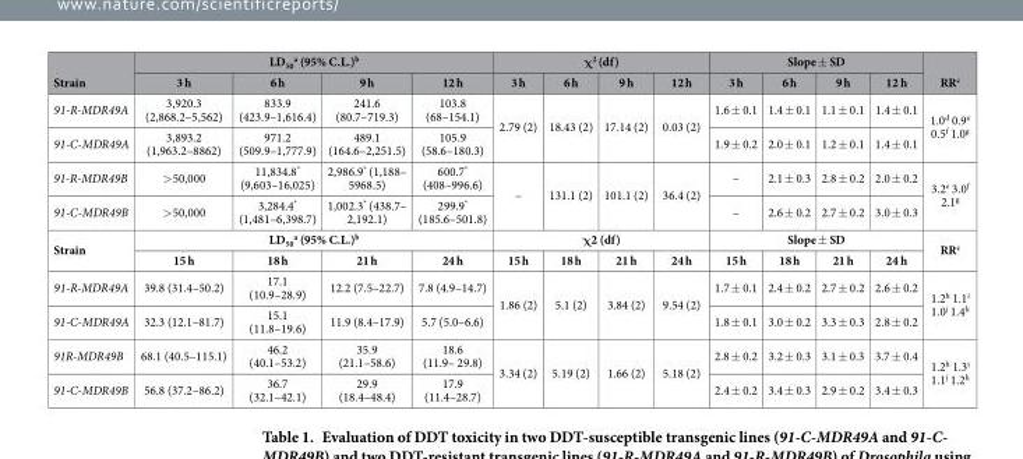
<table><thead><tr><td rowspan="2">Strain</td><td colspan="4">LD<sub>50</sub> <sup>a</sup> (95% C.L.)<sup>b</sup></td><td colspan="4">χ<sup>2</sup> (df)</td><td colspan="4">Slope ± SD</td><td rowspan="2">RR<sup>c</sup></td></tr><tr><td>3 h</td><td>6 h</td><td>9 h</td><td>12 h</td><td>3 h</td><td>6 h</td><td>9 h</td><td>12 h</td><td>3 h</td><td>6 h</td><td>9 h</td><td>12 h</td></tr></thead><tbody><tr><td>91-R-MDR49A</td><td>3,920.3 (2,868.2–5,562)</td><td>833.9 (423.9–1,616.4)</td><td>241.6 (80.7–719.3)</td><td>103.8 (68–154.1)</td><td rowspan="2">2.79 (2)</td><td rowspan="2">18.43 (2)</td><td rowspan="2">17.14 (2)</td><td rowspan="2">0.03 (2)</td><td>1.6 ± 0.1</td><td>1.4 ± 0.1</td><td>1.1 ± 0.1</td><td>1.4 ± 0.1</td><td rowspan="2">1.0<sup>d</sup> 0.9<sup>e</sup> 0.5<sup>f</sup> 1.0<sup>g</sup></td></tr><tr><td>91-C-MDR49A</td><td>3,893.2 (1,963.2–8862)</td><td>971.2 (509.9–1,777.9)</td><td>489.1 (164.6–2,251.5)</td><td>105.9 (58.6–180.3)</td><td>1.9 ± 0.2</td><td>2.0 ± 0.1</td><td>1.2 ± 0.1</td><td>1.4 ± 0.1</td></tr><tr><td>91-R-MDR49B</td><td>&gt; 50,000</td><td>11,834.8* (9,603–16,025)</td><td>2,986.9* (1,188– 5968.5)</td><td>600.7* (408–996.6)</td><td rowspan="2">–</td><td rowspan="2">131.1 (2)</td><td rowspan="2">101.1 (2)</td><td rowspan="2">36.4 (2)</td><td>–</td><td>2.1 ± 0.3</td><td>2.8 ± 0.2</td><td>2.0 ± 0.2</td><td rowspan="2">3.2<sup>e</sup> 3.0<sup>f</sup> 2.1<sup>g</sup></td></tr><tr><td>91-C-MDR49B</td><td>&gt; 50,000</td><td>3,284.4* (1,481–6,398.7)</td><td>1,002.3* (438.7– 2,192.1)</td><td>299.9* (185.6–501.8)</td><td>–</td><td>2.6 ± 0.2</td><td>2.7 ± 0.2</td><td>3.0 ± 0.3</td></tr><tr><td rowspan="2">Strain</td><td colspan="4">LD<sub>50</sub> <sup>a</sup> (95% C.L.)<sup>b</sup></td><td colspan="4">χ2 (df)</td><td colspan="4">Slope ± SD</td><td rowspan="2">RR<sup>c</sup></td></tr><tr><td>15 h</td><td>18 h</td><td>21 h</td><td>24 h</td><td>15 h</td><td>18 h</td><td>21 h</td><td>24 h</td><td>15 h</td><td>18 h</td><td>21 h</td><td>24 h</td></tr><tr><td>91-R-MDR49A</td><td>39.8 (31.4–50.2)</td><td>17.1 (10.9–28.9)</td><td>12.2 (7.5–22.7)</td><td>7.8 (4.9–14.7)</td><td rowspan="2">1.86 (2)</td><td rowspan="2">5.1 (2)</td><td rowspan="2">3.84 (2)</td><td rowspan="2">9.54 (2)</td><td>1.7 ± 0.1</td><td>2.4 ± 0.2</td><td>2.7 ± 0.2</td><td>2.6 ± 0.2</td><td rowspan="2">1.2<sup>h</sup> 1.1<sup>i</sup> 1.0<sup>j</sup> 1.4<sup>k</sup></td></tr><tr><td>91-C-MDR49A</td><td>32.3 (12.1–81.7)</td><td>15.1 (11.8–19.6)</td><td>11.9 (8.4–17.9)</td><td>5.7 (5.0–6.6)</td><td>1.8 ± 0.1</td><td>3.0 ± 0.2</td><td>3.3 ± 0.3</td><td>2.8 ± 0.2</td></tr><tr><td>91R-MDR49B</td><td>68.1 (40.5–115.1)</td><td>46.2 (40.1–53.2)</td><td>35.9 (21.1–58.6)</td><td>18.6 (11.9– 29.8)</td><td rowspan="2">3.34 (2)</td><td rowspan="2">5.19 (2)</td><td rowspan="2">1.66 (2)</td><td rowspan="2">5.18 (2)</td><td>2.8 ± 0.2</td><td>3.2 ± 0.3</td><td>3.1 ± 0.3</td><td>3.7 ± 0.4</td><td rowspan="2">1.2<sup>h</sup> 1.3<sup>i</sup> 1.1<sup>j</sup> 1.2<sup>k</sup></td></tr><tr><td>91-C-MDR49B</td><td>56.8 (37.2–86.2)</td><td>36.7 (32.1–42.1)</td><td>29.9 (18.4–48.4)</td><td>17.9 (11.4–28.7)</td><td>2.4 ± 0.2</td><td>3.4 ± 0.3</td><td>2.9 ± 0.2</td><td>3.4 ± 0.3</td></tr></tbody></table>